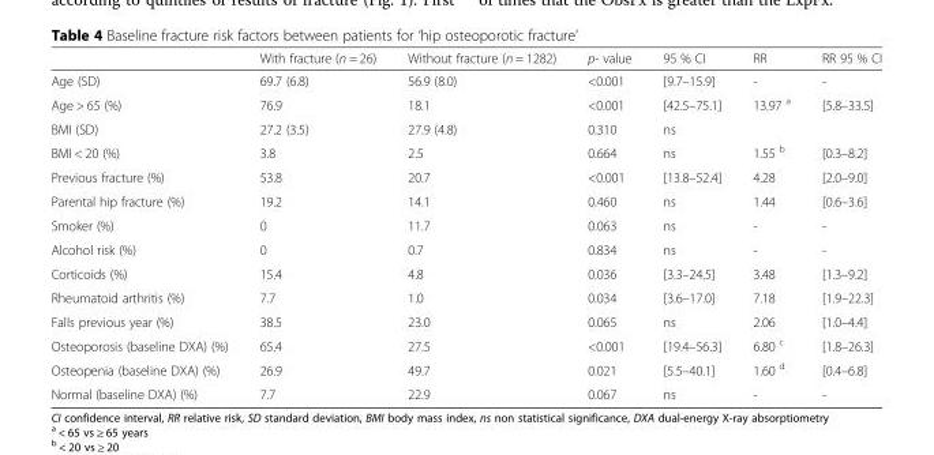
<table><thead><tr><td></td><td>With fracture (n = 26)</td><td>Without fracture (n = 1282)</td><td>p- value</td><td>95 % CI</td><td>RR</td><td>RR 95 % CI</td></tr></thead><tbody><tr><td>Age (SD)</td><td>69.7 (6.8)</td><td>56.9 (8.0)</td><td>&lt;0.001</td><td>[9.7–15.9]</td><td>-</td><td>-</td></tr><tr><td>Age &gt; 65 (%)</td><td>76.9</td><td>18.1</td><td>&lt;0.001</td><td>[42.5–75.1]</td><td>13.97 <sup>a</sup></td><td>[5.8–33.5]</td></tr><tr><td>BMI (SD)</td><td>27.2 (3.5)</td><td>27.9 (4.8)</td><td>0.310</td><td>ns</td><td></td><td></td></tr><tr><td>BMI &lt; 20 (%)</td><td>3.8</td><td>2.5</td><td>0.664</td><td>ns</td><td>1.55 <sup>b</sup></td><td>[0.3–8.2]</td></tr><tr><td>Previous fracture (%)</td><td>53.8</td><td>20.7</td><td>&lt;0.001</td><td>[13.8–52.4]</td><td>4.28</td><td>[2.0–9.0]</td></tr><tr><td>Parental hip fracture (%)</td><td>19.2</td><td>14.1</td><td>0.460</td><td>ns</td><td>1.44</td><td>[0.6–3.6]</td></tr><tr><td>Smoker (%)</td><td>0</td><td>11.7</td><td>0.063</td><td>ns</td><td>-</td><td>-</td></tr><tr><td>Alcohol risk (%)</td><td>0</td><td>0.7</td><td>0.834</td><td>ns</td><td>-</td><td>-</td></tr><tr><td>Corticoids (%)</td><td>15.4</td><td>4.8</td><td>0.036</td><td>[3.3–24.5]</td><td>3.48</td><td>[1.3–9.2]</td></tr><tr><td>Rheumatoid arthritis (%)</td><td>7.7</td><td>1.0</td><td>0.034</td><td>[3.6–17.0]</td><td>7.18</td><td>[1.9–22.3]</td></tr><tr><td>Falls previous year (%)</td><td>38.5</td><td>23.0</td><td>0.065</td><td>ns</td><td>2.06</td><td>[1.0–4.4]</td></tr><tr><td>Osteoporosis (baseline DXA) (%)</td><td>65.4</td><td>27.5</td><td>&lt;0.001</td><td>[19.4–56.3]</td><td>6.80 <sup>c</sup></td><td>[1.8–26.3]</td></tr><tr><td>Osteopenia (baseline DXA) (%)</td><td>26.9</td><td>49.7</td><td>0.021</td><td>[5.5–40.1]</td><td>1.60 <sup>d</sup></td><td>[0.4–6.8]</td></tr><tr><td>Normal (baseline DXA) (%)</td><td>7.7</td><td>22.9</td><td>0.067</td><td>ns</td><td>-</td><td>-</td></tr></tbody></table>